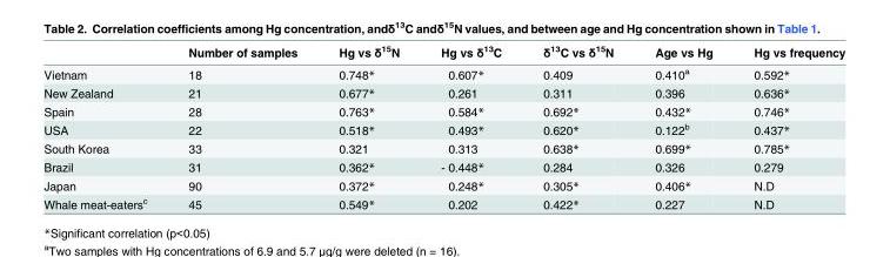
<table><thead><tr><td></td><td>Number of samples</td><td>Hg vs δ<sup>15</sup>N</td><td>Hg vs δ<sup>13</sup>C</td><td>δ<sup>13</sup>C vs δ<sup>15</sup>N</td><td>Age vs Hg</td><td>Hg vs frequency</td></tr></thead><tbody><tr><td>Vietnam</td><td>18</td><td>0.748*</td><td>0.607*</td><td>0.409</td><td>0.410<sup>a</sup></td><td>0.592*</td></tr><tr><td>New Zealand</td><td>21</td><td>0.677*</td><td>0.261</td><td>0.311</td><td>0.396</td><td>0.636*</td></tr><tr><td>Spain</td><td>28</td><td>0.763*</td><td>0.584*</td><td>0.692*</td><td>0.432*</td><td>0.746*</td></tr><tr><td>USA</td><td>22</td><td>0.518*</td><td>0.493*</td><td>0.620*</td><td>0.122<sup>b</sup></td><td>0.437*</td></tr><tr><td>South Korea</td><td>33</td><td>0.321</td><td>0.313</td><td>0.638*</td><td>0.699*</td><td>0.785*</td></tr><tr><td>Brazil</td><td>31</td><td>0.362*</td><td>- 0.448*</td><td>0.284</td><td>0.326</td><td>0.279</td></tr><tr><td>Japan</td><td>90</td><td>0.372*</td><td>0.248*</td><td>0.305*</td><td>0.406*</td><td>N.D</td></tr><tr><td>Whale meat-eaters<sup>c</sup></td><td>45</td><td>0.549*</td><td>0.202</td><td>0.422*</td><td>0.227</td><td>N.D</td></tr></tbody></table>